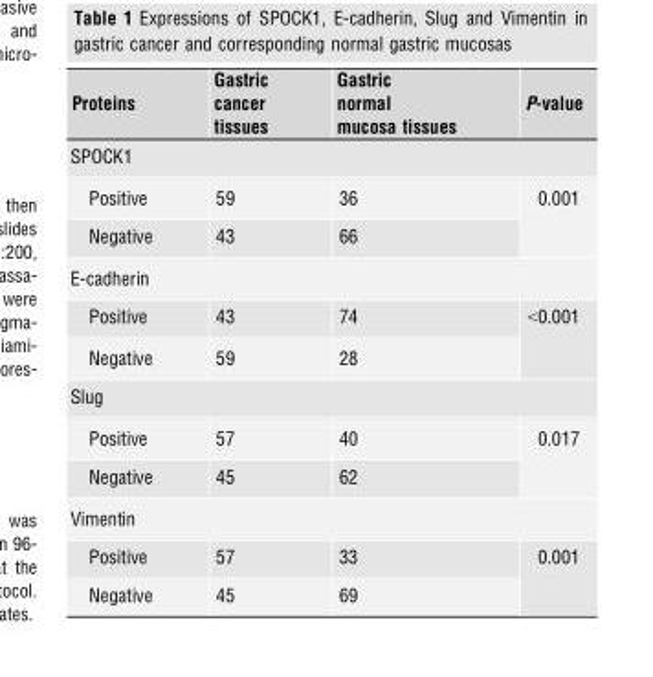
<table><thead><tr><td>Proteins</td><td>Gastric cancer tissues</td><td>Gastric normal mucosa tissues</td><td>P-value</td></tr></thead><tbody><tr><td colspan="4">SPOCK1</td></tr><tr><td>Positive</td><td>59</td><td>36</td><td rowspan="2">0.001</td></tr><tr><td>Negative</td><td>43</td><td>66</td></tr><tr><td colspan="4">E-cadherin</td></tr><tr><td>Positive</td><td>43</td><td>74</td><td rowspan="2">&lt;0.001</td></tr><tr><td>Negative</td><td>59</td><td>28</td></tr><tr><td colspan="4">Slug</td></tr><tr><td>Positive</td><td>57</td><td>40</td><td rowspan="2">0.017</td></tr><tr><td>Negative</td><td>45</td><td>62</td></tr><tr><td colspan="4">Vimentin</td></tr><tr><td>Positive</td><td>57</td><td>33</td><td rowspan="2">0.001</td></tr><tr><td>Negative</td><td>45</td><td>69</td></tr></tbody></table>